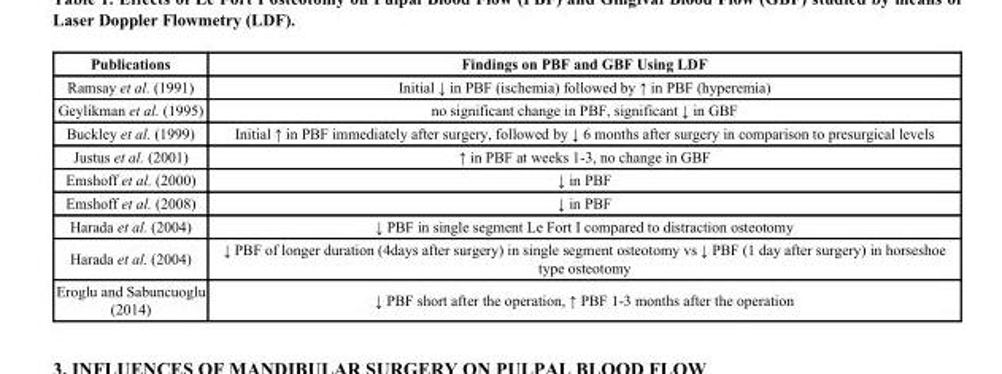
<table><thead><tr><td>Publications</td><td>Findings on PBF and GBF Using LDF</td></tr></thead><tbody><tr><td>Ramsay et al. (1991)</td><td>Initial ↓ in PBF (ischemia) followed by ↑ in PBF (hyperemia)</td></tr><tr><td>Geylikman et al. (1995)</td><td>no significant change in PBF, significant ↓ in GBF</td></tr><tr><td>Buckley et al. (1999)</td><td>Initial ↑ in PBF immediately after surgery, followed by ↓ 6 months after surgery in comparison to presurgical levels</td></tr><tr><td>Justus et al. (2001)</td><td>↑ in PBF at weeks 1-3, no change in GBF</td></tr><tr><td>Emshoff et al. (2000)</td><td>↓ in PBF</td></tr><tr><td>Emshoff et al. (2008)</td><td>↓ in PBF</td></tr><tr><td>Harada et al. (2004)</td><td>↓ PBF in single segment Le Fort I compared to distraction osteotomy</td></tr><tr><td>Harada et al. (2004)</td><td>↓ PBF of longer duration (4days after surgery) in single segment osteotomy vs ↓ PBF (1 day after surgery) in horseshoe type osteotomy</td></tr><tr><td>Eroglu and Sabuncuoglu (2014)</td><td>↓ PBF short after the operation, ↑ PBF 1-3 months after the operation</td></tr></tbody></table>